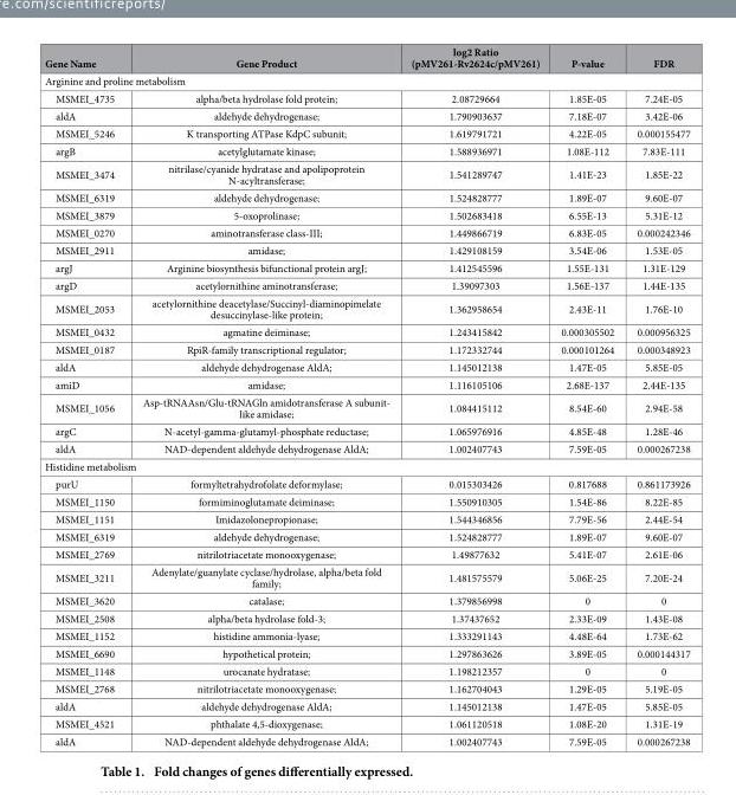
<table><thead><tr><td>Gene Name</td><td>Gene Product</td><td>log2 Ratio (pMV261-Rv2624c/pMV261)</td><td>P-value</td><td>FDR</td></tr></thead><tbody><tr><td colspan="5">Arginine and proline metabolism</td></tr><tr><td>MSMEI_4735</td><td>alpha/beta hydrolase fold protein;</td><td>2.08729664</td><td>1.85E-05</td><td>7.24E-05</td></tr><tr><td>aldA</td><td>aldehyde dehydrogenase;</td><td>1.790903637</td><td>7.18E-07</td><td>3.42E-06</td></tr><tr><td>MSMEI_5246</td><td>K transporting ATPase KdpC subunit;</td><td>1.619791721</td><td>4.22E-05</td><td>0.000155477</td></tr><tr><td>argB</td><td>acetylglutamate kinase;</td><td>1.588936971</td><td>1.08E-112</td><td>7.83E-111</td></tr><tr><td>MSMEI_3474</td><td>nitrilase/cyanide hydratase and apolipoprotein N-acyltransferase;</td><td>1.541289747</td><td>1.41E-23</td><td>1.85E-22</td></tr><tr><td>MSMEI_6319</td><td>aldehyde dehydrogenase;</td><td>1.524828777</td><td>1.89E-07</td><td>9.60E-07</td></tr><tr><td>MSMEI_3879</td><td>5-oxoprolinase;</td><td>1.502683418</td><td>6.55E-13</td><td>5.31E-12</td></tr><tr><td>MSMEI_0270</td><td>aminotransferase class-III;</td><td>1.449866719</td><td>6.83E-05</td><td>0.000242346</td></tr><tr><td>MSMEI_2911</td><td>amidase;</td><td>1.429108159</td><td>3.54E-06</td><td>1.53E-05</td></tr><tr><td>argJ</td><td>Arginine biosynthesis bifunctional protein argJ;</td><td>1.412545596</td><td>1.55E-131</td><td>1.31E-129</td></tr><tr><td>argD</td><td>acetylornithine aminotransferase;</td><td>1.39097303</td><td>1.56E-137</td><td>1.44E-135</td></tr><tr><td>MSMEI_2053</td><td>acetylornithine deacetylase/Succinyl-diaminopimelate desuccinylase-like protein;</td><td>1.362958654</td><td>2.43E-11</td><td>1.76E-10</td></tr><tr><td>MSMEI_0432</td><td>agmatine deiminase;</td><td>1.243415842</td><td>0.000305502</td><td>0.000956325</td></tr><tr><td>MSMEI_0187</td><td>RpiR-family transcriptional regulator;</td><td>1.172332744</td><td>0.000101264</td><td>0.000348923</td></tr><tr><td>aldA</td><td>aldehyde dehydrogenase AldA;</td><td>1.145012138</td><td>1.47E-05</td><td>5.85E-05</td></tr><tr><td>amiD</td><td>amidase;</td><td>1.116105106</td><td>2.68E-137</td><td>2.44E-135</td></tr><tr><td>MSMEI_1056</td><td>Asp-tRNAAsn/Glu-tRNAGln amidotransferase A subunit- like amidase;</td><td>1.084415112</td><td>8.54E-60</td><td>2.94E-58</td></tr><tr><td>argC</td><td>N-acetyl-gamma-glutamyl-phosphate reductase;</td><td>1.065976916</td><td>4.85E-48</td><td>1.28E-46</td></tr><tr><td>aldA</td><td>NAD-dependent aldehyde dehydrogenase AldA;</td><td>1.002407743</td><td>7.59E-05</td><td>0.000267238</td></tr><tr><td colspan="5">Histidine metabolism</td></tr><tr><td>purU</td><td>formyltetrahydrofolate deformylase;</td><td>0.015303426</td><td>0.817688</td><td>0.861173926</td></tr><tr><td>MSMEI_1150</td><td>formiminoglutamate deiminase;</td><td>1.550910305</td><td>1.54E-86</td><td>8.22E-85</td></tr><tr><td>MSMEI_1151</td><td>Imidazolonepropionase;</td><td>1.544346856</td><td>7.79E-56</td><td>2.44E-54</td></tr><tr><td>MSMEI_6319</td><td>aldehyde dehydrogenase;</td><td>1.524828777</td><td>1.89E-07</td><td>9.60E-07</td></tr><tr><td>MSMEI_2769</td><td>nitrilotriacetate monooxygenase;</td><td>1.49877632</td><td>5.41E-07</td><td>2.61E-06</td></tr><tr><td>MSMEI_3211</td><td>Adenylate/guanylate cyclase/hydrolase, alpha/beta fold family;</td><td>1.481575579</td><td>5.06E-25</td><td>7.20E-24</td></tr><tr><td>MSMEI_3620</td><td>catalase;</td><td>1.379856998</td><td>0</td><td>0</td></tr><tr><td>MSMEI_2508</td><td>alpha/beta hydrolase fold-3;</td><td>1.37437652</td><td>2.33E-09</td><td>1.43E-08</td></tr><tr><td>MSMEI_1152</td><td>histidine ammonia-lyase;</td><td>1.333291143</td><td>4.48E-64</td><td>1.73E-62</td></tr><tr><td>MSMEI_6690</td><td>hypothetical protein;</td><td>1.297863626</td><td>3.89E-05</td><td>0.000144317</td></tr><tr><td>MSMEI_1148</td><td>urocanate hydratase;</td><td>1.198212357</td><td>0</td><td>0</td></tr><tr><td>MSMEI_2768</td><td>nitrilotriacetate monooxygenase;</td><td>1.162704043</td><td>1.29E-05</td><td>5.19E-05</td></tr><tr><td>aldA</td><td>aldehyde dehydrogenase AldA;</td><td>1.145012138</td><td>1.47E-05</td><td>5.85E-05</td></tr><tr><td>MSMEI_4521</td><td>phthalate 4,5-dioxygenase;</td><td>1.061120518</td><td>1.08E-20</td><td>1.31E-19</td></tr><tr><td>aldA</td><td>NAD-dependent aldehyde dehydrogenase AldA;</td><td>1.002407743</td><td>7.59E-05</td><td>0.000267238</td></tr></tbody></table>